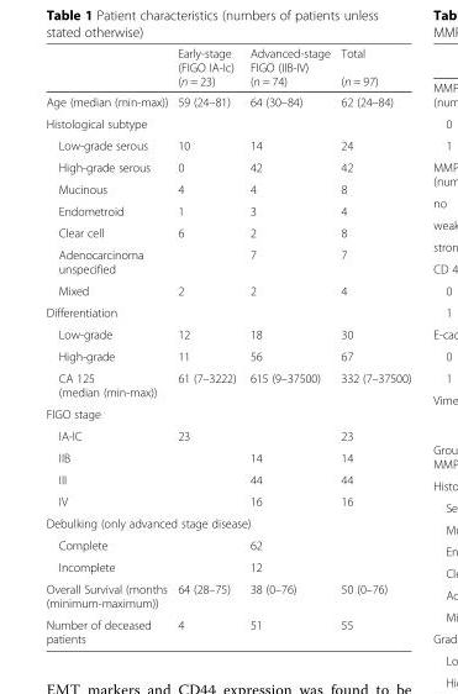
<table><thead><tr><td></td><td>Early-stage (FIGO IA-Ic) (n = 23)</td><td>Advanced-stage FIGO (IIB-IV) (n = 74)</td><td>Total (n = 97)</td></tr></thead><tbody><tr><td>Age (median (min-max))</td><td>59 (24–81)</td><td>64 (30–84)</td><td>62 (24–84)</td></tr><tr><td colspan="4">Histological subtype</td></tr><tr><td>Low-grade serous</td><td>10</td><td>14</td><td>24</td></tr><tr><td>High-grade serous</td><td>0</td><td>42</td><td>42</td></tr><tr><td>Mucinous</td><td>4</td><td>4</td><td>8</td></tr><tr><td>Endometroid</td><td>1</td><td>3</td><td>4</td></tr><tr><td>Clear cell</td><td>6</td><td>2</td><td>8</td></tr><tr><td>Adenocarcinoma unspecified</td><td></td><td>7</td><td>7</td></tr><tr><td>Mixed</td><td>2</td><td>2</td><td>4</td></tr><tr><td colspan="4">Differentiation</td></tr><tr><td>Low-grade</td><td>12</td><td>18</td><td>30</td></tr><tr><td>High-grade</td><td>11</td><td>56</td><td>67</td></tr><tr><td>CA 125 (median (min-max))</td><td>61 (7–3222)</td><td>615 (9–37500)</td><td>332 (7–37500)</td></tr><tr><td colspan="4">FIGO stage</td></tr><tr><td>IA-IC</td><td>23</td><td></td><td>23</td></tr><tr><td>IIB</td><td></td><td>14</td><td>14</td></tr><tr><td>III</td><td></td><td>44</td><td>44</td></tr><tr><td>IV</td><td></td><td>16</td><td>16</td></tr><tr><td colspan="4">Debulking (only advanced stage disease)</td></tr><tr><td>Complete</td><td></td><td>62</td><td></td></tr><tr><td>Incomplete</td><td></td><td>12</td><td></td></tr><tr><td>Overall Survival (months (minimum-maximum))</td><td>64 (28–75)</td><td>38 (0–76)</td><td>50 (0–76)</td></tr><tr><td>Number of deceased patients</td><td>4</td><td>51</td><td>55</td></tr></tbody></table>